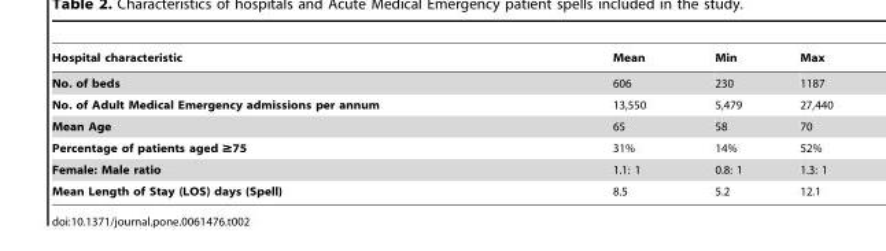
<table><thead><tr><td>Hospital characteristic</td><td>Mean</td><td>Min</td><td>Max</td></tr></thead><tbody><tr><td>No. of beds</td><td>606</td><td>230</td><td>1187</td></tr><tr><td>No. of Adult Medical Emergency admissions per annum</td><td>13,550</td><td>5,479</td><td>27,440</td></tr><tr><td>Mean Age</td><td>65</td><td>58</td><td>70</td></tr><tr><td>Percentage of patients aged ≥75</td><td>31%</td><td>14%</td><td>52%</td></tr><tr><td>Female: Male ratio</td><td>1.1: 1</td><td>0.8: 1</td><td>1.3: 1</td></tr><tr><td>Mean Length of Stay (LOS) days (Spell)</td><td>8.5</td><td>5.2</td><td>12.1</td></tr></tbody></table>